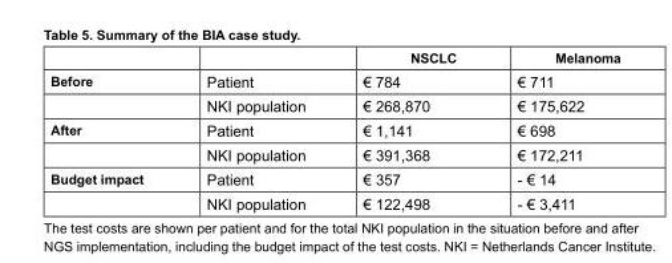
<table><thead><tr><td></td><td></td><td>NSCLC</td><td>Melanoma</td></tr></thead><tbody><tr><td rowspan="2">Before</td><td>Patient</td><td>€ 784</td><td>€ 711</td></tr><tr><td>NKI population</td><td>€ 268,870</td><td>€ 175,622</td></tr><tr><td rowspan="2">After</td><td>Patient</td><td>€ 1,141</td><td>€ 698</td></tr><tr><td>NKI population</td><td>€ 391,368</td><td>€ 172,211</td></tr><tr><td rowspan="2">Budget impact</td><td>Patient</td><td>€ 357</td><td>- € 14</td></tr><tr><td>NKI population</td><td>€ 122,498</td><td>- € 3,411</td></tr></tbody></table>